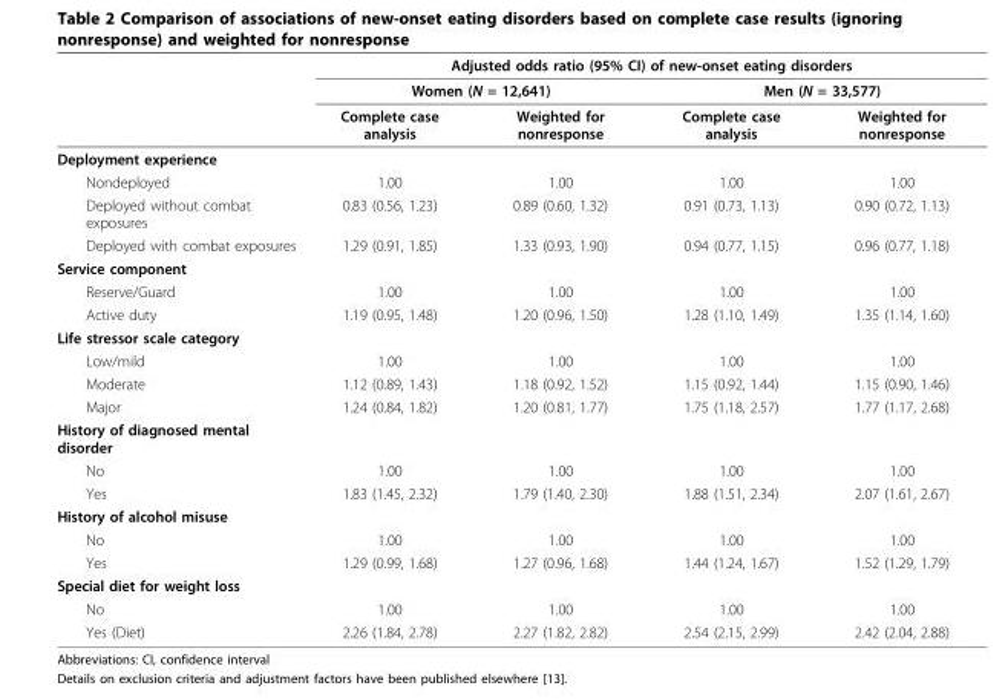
<table><thead><tr><td rowspan="3"></td><td colspan="4">Adjusted odds ratio (95% CI) of new-onset eating disorders</td></tr><tr><td colspan="2">Women (N = 12,641)</td><td colspan="2">Men (N = 33,577)</td></tr><tr><td>Complete case analysis</td><td>Weighted for nonresponse</td><td>Complete case analysis</td><td>Weighted for nonresponse</td></tr></thead><tbody><tr><td colspan="5">Deployment experience</td></tr><tr><td>Nondeployed</td><td>1.00</td><td>1.00</td><td>1.00</td><td>1.00</td></tr><tr><td>Deployed without combat exposures</td><td>0.83 (0.56, 1.23)</td><td>0.89 (0.60, 1.32)</td><td>0.91 (0.73, 1.13)</td><td>0.90 (0.72, 1.13)</td></tr><tr><td>Deployed with combat exposures</td><td>1.29 (0.91, 1.85)</td><td>1.33 (0.93, 1.90)</td><td>0.94 (0.77, 1.15)</td><td>0.96 (0.77, 1.18)</td></tr><tr><td colspan="5">Service component</td></tr><tr><td>Reserve/Guard</td><td>1.00</td><td>1.00</td><td>1.00</td><td>1.00</td></tr><tr><td>Active duty</td><td>1.19 (0.95, 1.48)</td><td>1.20 (0.96, 1.50)</td><td>1.28 (1.10, 1.49)</td><td>1.35 (1.14, 1.60)</td></tr><tr><td colspan="5">Life stressor scale category</td></tr><tr><td>Low/mild</td><td>1.00</td><td>1.00</td><td>1.00</td><td>1.00</td></tr><tr><td>Moderate</td><td>1.12 (0.89, 1.43)</td><td>1.18 (0.92, 1.52)</td><td>1.15 (0.92, 1.44)</td><td>1.15 (0.90, 1.46)</td></tr><tr><td>Major</td><td>1.24 (0.84, 1.82)</td><td>1.20 (0.81, 1.77)</td><td>1.75 (1.18, 2.57)</td><td>1.77 (1.17, 2.68)</td></tr><tr><td colspan="5">History of diagnosed mental disorder</td></tr><tr><td>No</td><td>1.00</td><td>1.00</td><td>1.00</td><td>1.00</td></tr><tr><td>Yes</td><td>1.83 (1.45, 2.32)</td><td>1.79 (1.40, 2.30)</td><td>1.88 (1.51, 2.34)</td><td>2.07 (1.61, 2.67)</td></tr><tr><td colspan="5">History of alcohol misuse</td></tr><tr><td>No</td><td>1.00</td><td>1.00</td><td>1.00</td><td>1.00</td></tr><tr><td>Yes</td><td>1.29 (0.99, 1.68)</td><td>1.27 (0.96, 1.68)</td><td>1.44 (1.24, 1.67)</td><td>1.52 (1.29, 1.79)</td></tr><tr><td colspan="5">Special diet for weight loss</td></tr><tr><td>No</td><td>1.00</td><td>1.00</td><td>1.00</td><td>1.00</td></tr><tr><td>Yes (Diet)</td><td>2.26 (1.84, 2.78)</td><td>2.27 (1.82, 2.82)</td><td>2.54 (2.15, 2.99)</td><td>2.42 (2.04, 2.88)</td></tr></tbody></table>